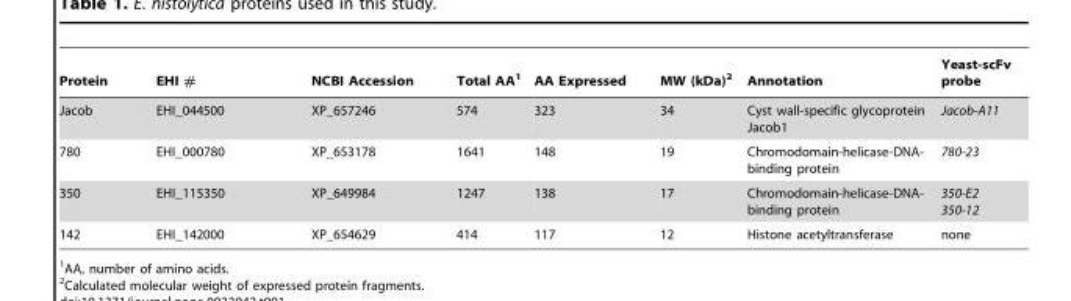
<table><thead><tr><td>Protein</td><td>EHI #</td><td>NCBI Accession</td><td>Total AA<sup>1</sup></td><td>AA Expressed</td><td>MW (kDa)<sup>2</sup></td><td>Annotation</td><td>Yeast-scFv probe</td></tr></thead><tbody><tr><td>Jacob</td><td>EHI_044500</td><td>XP_657246</td><td>574</td><td>323</td><td>34</td><td>Cyst wall-specific glycoprotein Jacob1</td><td>Jacob-A11</td></tr><tr><td>780</td><td>EHI_000780</td><td>XP_653178</td><td>1641</td><td>148</td><td>19</td><td>Chromodomain-helicase-DNA- binding protein</td><td>780-23</td></tr><tr><td>350</td><td>EHI_115350</td><td>XP_649984</td><td>1247</td><td>138</td><td>17</td><td>Chromodomain-helicase-DNA- binding protein</td><td>350-E2 350-12</td></tr><tr><td>142</td><td>EHI_142000</td><td>XP_654629</td><td>414</td><td>117</td><td>12</td><td>Histone acetyltransferase</td><td>none</td></tr></tbody></table>